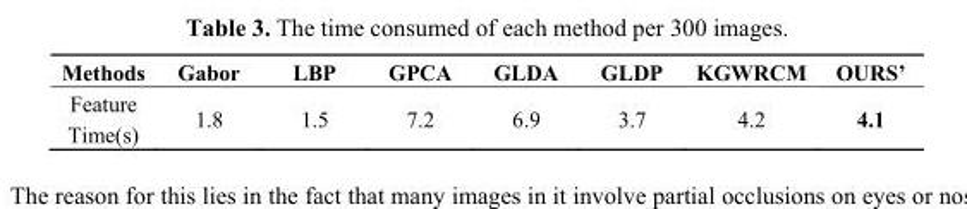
<table><thead><tr><td>Methods</td><td>Gabor</td><td>LBP</td><td>GPCA</td><td>GLDA</td><td>GLDP</td><td>KGWRCM</td><td>OURS’</td></tr></thead><tbody><tr><td>Feature Time(s)</td><td>1.8</td><td>1.5</td><td>7.2</td><td>6.9</td><td>3.7</td><td>4.2</td><td>4.1</td></tr></tbody></table>